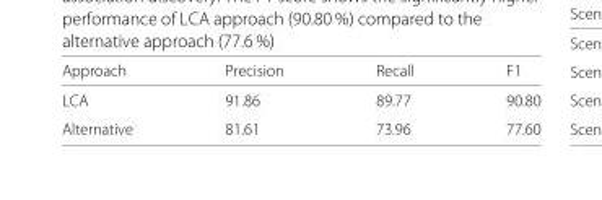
<table><thead><tr><td>Approach</td><td>Precision</td><td>Recall</td><td>F1</td></tr></thead><tbody><tr><td>LCA</td><td>91.86</td><td>89.77</td><td>90.80</td></tr><tr><td>Alternative</td><td>81.61</td><td>73.96</td><td>77.60</td></tr></tbody></table>